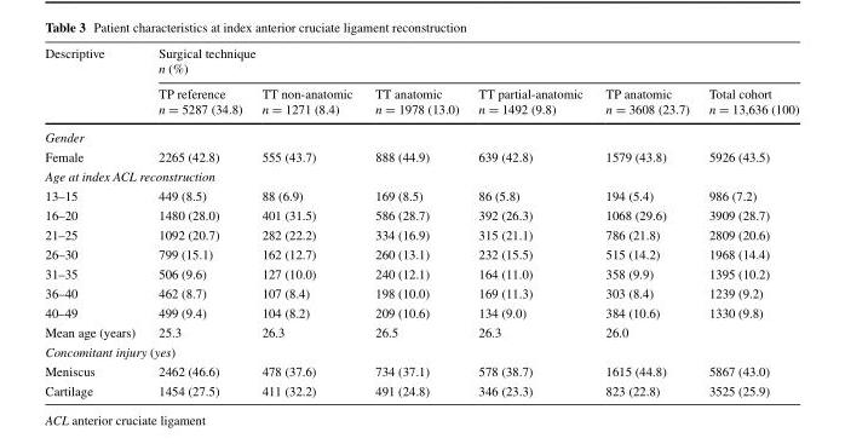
<table><thead><tr><td rowspan="2">Descriptive</td><td colspan="6">Surgical technique n (%)</td></tr><tr><td>TP reference n = 5287 (34.8)</td><td>TT non-anatomic n = 1271 (8.4)</td><td>TT anatomic n = 1978 (13.0)</td><td>TT partial-anatomic n = 1492 (9.8)</td><td>TP anatomic n = 3608 (23.7)</td><td>Total cohort n = 13,636 (100)</td></tr></thead><tbody><tr><td colspan="7">Gender</td></tr><tr><td>Female</td><td>2265 (42.8)</td><td>555 (43.7)</td><td>888 (44.9)</td><td>639 (42.8)</td><td>1579 (43.8)</td><td>5926 (43.5)</td></tr><tr><td colspan="7">Age at index ACL reconstruction</td></tr><tr><td>13–15</td><td>449 (8.5)</td><td>88 (6.9)</td><td>169 (8.5)</td><td>86 (5.8)</td><td>194 (5.4)</td><td>986 (7.2)</td></tr><tr><td>16–20</td><td>1480 (28.0)</td><td>401 (31.5)</td><td>586 (28.7)</td><td>392 (26.3)</td><td>1068 (29.6)</td><td>3909 (28.7)</td></tr><tr><td>21–25</td><td>1092 (20.7)</td><td>282 (22.2)</td><td>334 (16.9)</td><td>315 (21.1)</td><td>786 (21.8)</td><td>2809 (20.6)</td></tr><tr><td>26–30</td><td>799 (15.1)</td><td>162 (12.7)</td><td>260 (13.1)</td><td>232 (15.5)</td><td>515 (14.2)</td><td>1968 (14.4)</td></tr><tr><td>31–35</td><td>506 (9.6)</td><td>127 (10.0)</td><td>240 (12.1)</td><td>164 (11.0)</td><td>358 (9.9)</td><td>1395 (10.2)</td></tr><tr><td>36–40</td><td>462 (8.7)</td><td>107 (8.4)</td><td>198 (10.0)</td><td>169 (11.3)</td><td>303 (8.4)</td><td>1239 (9.2)</td></tr><tr><td>40–49</td><td>499 (9.4)</td><td>104 (8.2)</td><td>209 (10.6)</td><td>134 (9.0)</td><td>384 (10.6)</td><td>1330 (9.8)</td></tr><tr><td>Mean age (years)</td><td>25.3</td><td>26.3</td><td>26.5</td><td>26.3</td><td>26.0</td><td></td></tr><tr><td colspan="7">Concomitant injury (yes)</td></tr><tr><td>Meniscus</td><td>2462 (46.6)</td><td>478 (37.6)</td><td>734 (37.1)</td><td>578 (38.7)</td><td>1615 (44.8)</td><td>5867 (43.0)</td></tr><tr><td>Cartilage</td><td>1454 (27.5)</td><td>411 (32.2)</td><td>491 (24.8)</td><td>346 (23.3)</td><td>823 (22.8)</td><td>3525 (25.9)</td></tr></tbody></table>